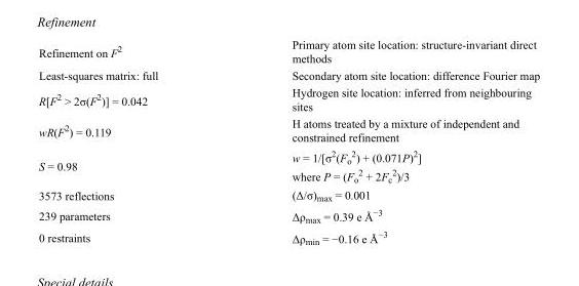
<table><tbody><tr><td>Refinement on F<sup>2</sup></td><td>Primary atom site location: structure-invariant direct methods</td></tr><tr><td>Least-squares matrix: full</td><td>Secondary atom site location: difference Fourier map</td></tr><tr><td>R[F<sup>2</sup> &gt; 2σ(F<sup>2</sup>)] = 0.042</td><td>Hydrogen site location: inferred from neighbouring sites</td></tr><tr><td>wR(F<sup>2</sup>) = 0.119</td><td>H atoms treated by a mixture of independent and constrained refinement</td></tr><tr><td>S = 0.98</td><td>w = 1/[σ<sup>2</sup>(F<sub>o</sub> <sup>2</sup>) + (0.071P)<sup>2</sup>] where P = (F<sub>o</sub> <sup>2</sup> + 2F<sub>c</sub> <sup>2</sup>)/3</td></tr><tr><td>3573 reflections</td><td>(Δ/σ)<sub>max</sub> = 0.001</td></tr><tr><td>239 parameters</td><td>Δρ<sub>max</sub> = 0.39 e Å<sup>−3</sup></td></tr><tr><td>0 restraints</td><td>Δρ<sub>min</sub> = −0.16 e Å<sup>−3</sup></td></tr></tbody></table>